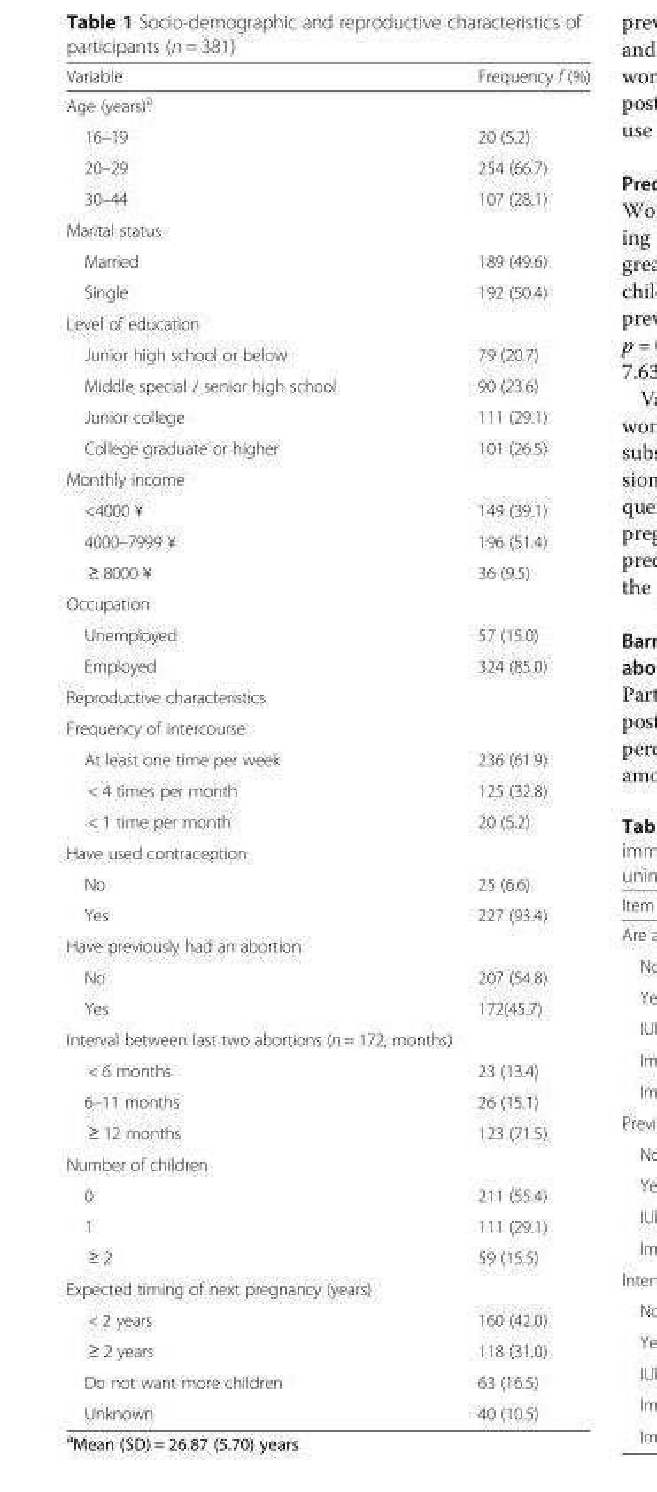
<table><thead><tr><td>Variable</td><td>Frequency f (%)</td></tr></thead><tbody><tr><td colspan="2">Age (years)<sup>a</sup></td></tr><tr><td>16–19</td><td>20 (5.2)</td></tr><tr><td>20–29</td><td>254 (66.7)</td></tr><tr><td>30–44</td><td>107 (28.1)</td></tr><tr><td colspan="2">Marital status</td></tr><tr><td>Married</td><td>189 (49.6)</td></tr><tr><td>Single</td><td>192 (50.4)</td></tr><tr><td colspan="2">Level of education</td></tr><tr><td>Junior high school or below</td><td>79 (20.7)</td></tr><tr><td>Middle special / senior high school</td><td>90 (23.6)</td></tr><tr><td>Junior college</td><td>111 (29.1)</td></tr><tr><td>College graduate or higher</td><td>101 (26.5)</td></tr><tr><td colspan="2">Monthly income</td></tr><tr><td>&lt;4000 ¥</td><td>149 (39.1)</td></tr><tr><td>4000–7999 ¥</td><td>196 (51.4)</td></tr><tr><td>≥ 8000 ¥</td><td>36 (9.5)</td></tr><tr><td colspan="2">Occupation</td></tr><tr><td>Unemployed</td><td>57 (15.0)</td></tr><tr><td>Employed</td><td>324 (85.0)</td></tr><tr><td colspan="2">Reproductive characteristics</td></tr><tr><td colspan="2">Frequency of intercourse</td></tr><tr><td>At least one time per week</td><td>236 (61.9)</td></tr><tr><td>&lt; 4 times per month</td><td>125 (32.8)</td></tr><tr><td>&lt; 1 time per month</td><td>20 (5.2)</td></tr><tr><td colspan="2">Have used contraception</td></tr><tr><td>No</td><td>25 (6.6)</td></tr><tr><td>Yes</td><td>227 (93.4)</td></tr><tr><td colspan="2">Have previously had an abortion</td></tr><tr><td>No</td><td>207 (54.8)</td></tr><tr><td>Yes</td><td>172(45.7)</td></tr><tr><td colspan="2">Interval between last two abortions (n = 172, months)</td></tr><tr><td>&lt; 6 months</td><td>23 (13.4)</td></tr><tr><td>6–11 months</td><td>26 (15.1)</td></tr><tr><td>≥ 12 months</td><td>123 (71.5)</td></tr><tr><td colspan="2">Number of children</td></tr><tr><td>0</td><td>211 (55.4)</td></tr><tr><td>1</td><td>111 (29.1)</td></tr><tr><td>≥ 2</td><td>59 (15.5)</td></tr><tr><td colspan="2">Expected timing of next pregnancy (years)</td></tr><tr><td>&lt; 2 years</td><td>160 (42.0)</td></tr><tr><td>≥ 2 years</td><td>118 (31.0)</td></tr><tr><td>Do not want more children</td><td>63 (16.5)</td></tr><tr><td>Unknown</td><td>40 (10.5)</td></tr></tbody></table>